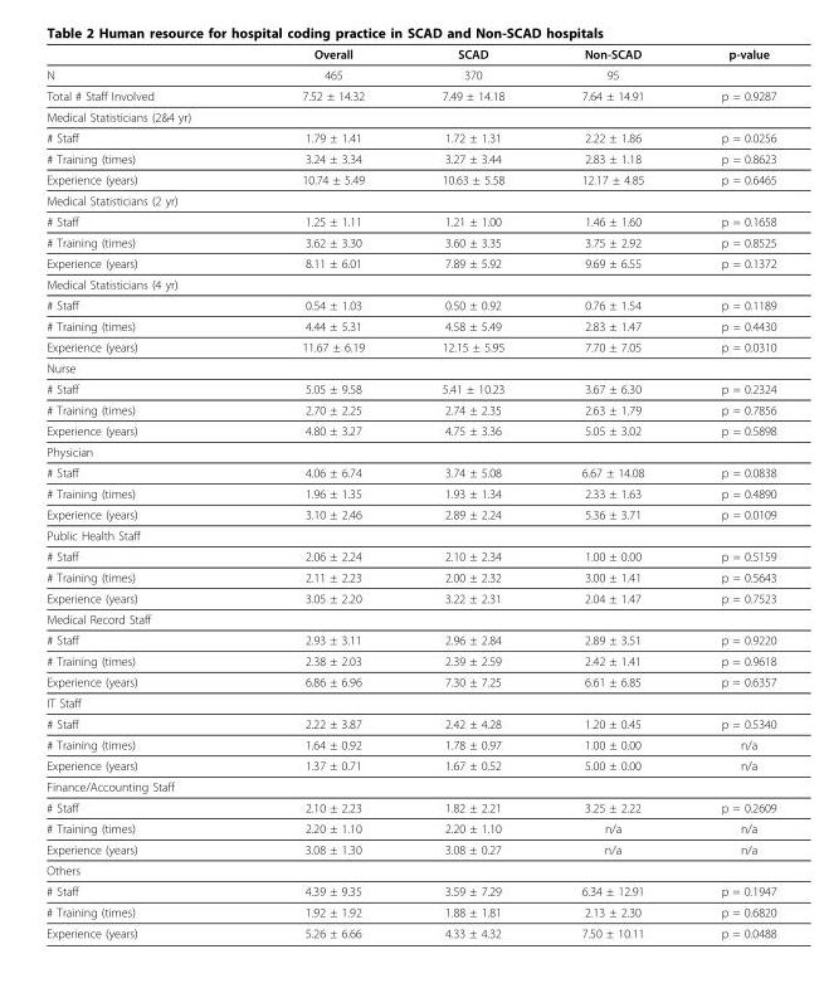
<table><thead><tr><td></td><td>Overall</td><td>SCAD</td><td>Non-SCAD</td><td>p-value</td></tr></thead><tbody><tr><td>N</td><td>465</td><td>370</td><td>95</td><td></td></tr><tr><td>Total # Staff Involved</td><td>7.52 ± 14.32</td><td>7.49 ± 14.18</td><td>7.64 ± 14.91</td><td>p = 0.9287</td></tr><tr><td colspan="5">Medical Statisticians (2&amp;4 yr)</td></tr><tr><td># Staff</td><td>1.79 ± 1.41</td><td>1.72 ± 1.31</td><td>2.22 ± 1.86</td><td>p = 0.0256</td></tr><tr><td># Training (times)</td><td>3.24 ± 3.34</td><td>3.27 ± 3.44</td><td>2.83 ± 1.18</td><td>p = 0.8623</td></tr><tr><td>Experience (years)</td><td>10.74 ± 5.49</td><td>10.63 ± 5.58</td><td>12.17 ± 4.85</td><td>p = 0.6465</td></tr><tr><td colspan="5">Medical Statisticians (2 yr)</td></tr><tr><td># Staff</td><td>1.25 ± 1.11</td><td>1.21 ± 1.00</td><td>1.46 ± 1.60</td><td>p = 0.1658</td></tr><tr><td># Training (times)</td><td>3.62 ± 3.30</td><td>3.60 ± 3.35</td><td>3.75 ± 2.92</td><td>p = 0.8525</td></tr><tr><td>Experience (years)</td><td>8.11 ± 6.01</td><td>7.89 ± 5.92</td><td>9.69 ± 6.55</td><td>p = 0.1372</td></tr><tr><td colspan="5">Medical Statisticians (4 yr)</td></tr><tr><td># Staff</td><td>0.54 ± 1.03</td><td>0.50 ± 0.92</td><td>0.76 ± 1.54</td><td>p = 0.1189</td></tr><tr><td># Training (times)</td><td>4.44 ± 5.31</td><td>4.58 ± 5.49</td><td>2.83 ± 1.47</td><td>p = 0.4430</td></tr><tr><td>Experience (years)</td><td>11.67 ± 6.19</td><td>12.15 ± 5.95</td><td>7.70 ± 7.05</td><td>p = 0.0310</td></tr><tr><td colspan="5">Nurse</td></tr><tr><td># Staff</td><td>5.05 ± 9.58</td><td>5.41 ± 10.23</td><td>3.67 ± 6.30</td><td>p = 0.2324</td></tr><tr><td># Training (times)</td><td>2.70 ± 2.25</td><td>2.74 ± 2.35</td><td>2.63 ± 1.79</td><td>p = 0.7856</td></tr><tr><td>Experience (years)</td><td>4.80 ± 3.27</td><td>4.75 ± 3.36</td><td>5.05 ± 3.02</td><td>p = 0.5898</td></tr><tr><td colspan="5">Physician</td></tr><tr><td># Staff</td><td>4.06 ± 6.74</td><td>3.74 ± 5.08</td><td>6.67 ± 14.08</td><td>p = 0.0838</td></tr><tr><td># Training (times)</td><td>1.96 ± 1.35</td><td>1.93 ± 1.34</td><td>2.33 ± 1.63</td><td>p = 0.4890</td></tr><tr><td>Experience (years)</td><td>3.10 ± 2.46</td><td>2.89 ± 2.24</td><td>5.36 ± 3.71</td><td>p = 0.0109</td></tr><tr><td colspan="5">Public Health Staff</td></tr><tr><td># Staff</td><td>2.06 ± 2.24</td><td>2.10 ± 2.34</td><td>1.00 ± 0.00</td><td>p = 0.5159</td></tr><tr><td># Training (times)</td><td>2.11 ± 2.23</td><td>2.00 ± 2.32</td><td>3.00 ± 1.41</td><td>p = 0.5643</td></tr><tr><td>Experience (years)</td><td>3.05 ± 2.20</td><td>3.22 ± 2.31</td><td>2.04 ± 1.47</td><td>p = 0.7523</td></tr><tr><td colspan="5">Medical Record Staff</td></tr><tr><td># Staff</td><td>2.93 ± 3.11</td><td>2.96 ± 2.84</td><td>2.89 ± 3.51</td><td>p = 0.9220</td></tr><tr><td># Training (times)</td><td>2.38 ± 2.03</td><td>2.39 ± 2.59</td><td>2.42 ± 1.41</td><td>p = 0.9618</td></tr><tr><td>Experience (years)</td><td>6.86 ± 6.96</td><td>7.30 ± 7.25</td><td>6.61 ± 6.85</td><td>p = 0.6357</td></tr><tr><td colspan="5">IT Staff</td></tr><tr><td># Staff</td><td>2.22 ± 3.87</td><td>2.42 ± 4.28</td><td>1.20 ± 0.45</td><td>p = 0.5340</td></tr><tr><td># Training (times)</td><td>1.64 ± 0.92</td><td>1.78 ± 0.97</td><td>1.00 ± 0.00</td><td>n/a</td></tr><tr><td>Experience (years)</td><td>1.37 ± 0.71</td><td>1.67 ± 0.52</td><td>5.00 ± 0.00</td><td>n/a</td></tr><tr><td colspan="5">Finance/Accounting Staff</td></tr><tr><td># Staff</td><td>2.10 ± 2.23</td><td>1.82 ± 2.21</td><td>3.25 ± 2.22</td><td>p = 0.2609</td></tr><tr><td># Training (times)</td><td>2.20 ± 1.10</td><td>2.20 ± 1.10</td><td>n/a</td><td>n/a</td></tr><tr><td>Experience (years)</td><td>3.08 ± 1.30</td><td>3.08 ± 0.27</td><td>n/a</td><td>n/a</td></tr><tr><td colspan="5">Others</td></tr><tr><td># Staff</td><td>4.39 ± 9.35</td><td>3.59 ± 7.29</td><td>6.34 ± 12.91</td><td>p = 0.1947</td></tr><tr><td># Training (times)</td><td>1.92 ± 1.92</td><td>1.88 ± 1.81</td><td>2.13 ± 2.30</td><td>p = 0.6820</td></tr><tr><td>Experience (years)</td><td>5.26 ± 6.66</td><td>4.33 ± 4.32</td><td>7.50 ± 10.11</td><td>p = 0.0488</td></tr></tbody></table>